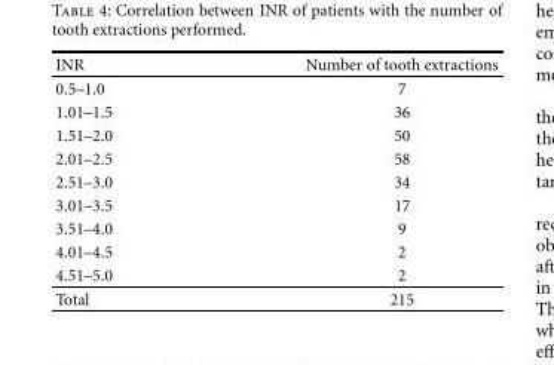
<table><thead><tr><td>INR</td><td>Number of tooth extractions</td></tr></thead><tbody><tr><td>0.5–1.0</td><td>7</td></tr><tr><td>1.01–1.5</td><td>36</td></tr><tr><td>1.51–2.0</td><td>50</td></tr><tr><td>2.01–2.5</td><td>58</td></tr><tr><td>2.51–3.0</td><td>34</td></tr><tr><td>3.01–3.5</td><td>17</td></tr><tr><td>3.51–4.0</td><td>9</td></tr><tr><td>4.01–4.5</td><td>2</td></tr><tr><td>4.51–5.0</td><td>2</td></tr><tr><td>Total</td><td>215</td></tr></tbody></table>